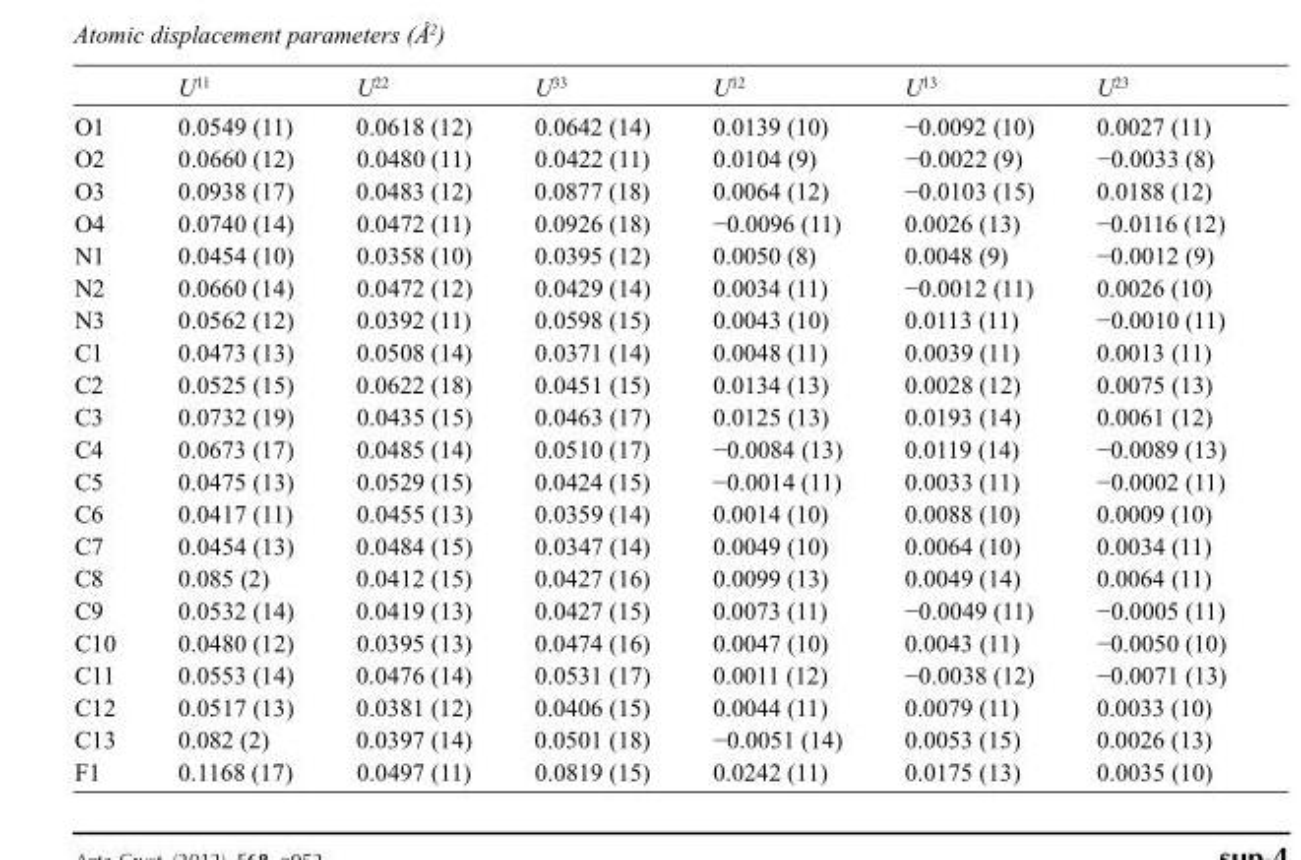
<table><thead><tr><td></td><td>U<sup>11</sup></td><td>U<sup>22</sup></td><td>U<sup>33</sup></td><td>U<sup>12</sup></td><td>U<sup>13</sup></td><td>U<sup>23</sup></td></tr></thead><tbody><tr><td>O1</td><td>0.0549 (11)</td><td>0.0618 (12)</td><td>0.0642 (14)</td><td>0.0139 (10)</td><td>−0.0092 (10)</td><td>0.0027 (11)</td></tr><tr><td>O2</td><td>0.0660 (12)</td><td>0.0480 (11)</td><td>0.0422 (11)</td><td>0.0104 (9)</td><td>−0.0022 (9)</td><td>−0.0033 (8)</td></tr><tr><td>O3</td><td>0.0938 (17)</td><td>0.0483 (12)</td><td>0.0877 (18)</td><td>0.0064 (12)</td><td>−0.0103 (15)</td><td>0.0188 (12)</td></tr><tr><td>O4</td><td>0.0740 (14)</td><td>0.0472 (11)</td><td>0.0926 (18)</td><td>−0.0096 (11)</td><td>0.0026 (13)</td><td>−0.0116 (12)</td></tr><tr><td>N1</td><td>0.0454 (10)</td><td>0.0358 (10)</td><td>0.0395 (12)</td><td>0.0050 (8)</td><td>0.0048 (9)</td><td>−0.0012 (9)</td></tr><tr><td>N2</td><td>0.0660 (14)</td><td>0.0472 (12)</td><td>0.0429 (14)</td><td>0.0034 (11)</td><td>−0.0012 (11)</td><td>0.0026 (10)</td></tr><tr><td>N3</td><td>0.0562 (12)</td><td>0.0392 (11)</td><td>0.0598 (15)</td><td>0.0043 (10)</td><td>0.0113 (11)</td><td>−0.0010 (11)</td></tr><tr><td>C1</td><td>0.0473 (13)</td><td>0.0508 (14)</td><td>0.0371 (14)</td><td>0.0048 (11)</td><td>0.0039 (11)</td><td>0.0013 (11)</td></tr><tr><td>C2</td><td>0.0525 (15)</td><td>0.0622 (18)</td><td>0.0451 (15)</td><td>0.0134 (13)</td><td>0.0028 (12)</td><td>0.0075 (13)</td></tr><tr><td>C3</td><td>0.0732 (19)</td><td>0.0435 (15)</td><td>0.0463 (17)</td><td>0.0125 (13)</td><td>0.0193 (14)</td><td>0.0061 (12)</td></tr><tr><td>C4</td><td>0.0673 (17)</td><td>0.0485 (14)</td><td>0.0510 (17)</td><td>−0.0084 (13)</td><td>0.0119 (14)</td><td>−0.0089 (13)</td></tr><tr><td>C5</td><td>0.0475 (13)</td><td>0.0529 (15)</td><td>0.0424 (15)</td><td>−0.0014 (11)</td><td>0.0033 (11)</td><td>−0.0002 (11)</td></tr><tr><td>C6</td><td>0.0417 (11)</td><td>0.0455 (13)</td><td>0.0359 (14)</td><td>0.0014 (10)</td><td>0.0088 (10)</td><td>0.0009 (10)</td></tr><tr><td>C7</td><td>0.0454 (13)</td><td>0.0484 (15)</td><td>0.0347 (14)</td><td>0.0049 (10)</td><td>0.0064 (10)</td><td>0.0034 (11)</td></tr><tr><td>C8</td><td>0.085 (2)</td><td>0.0412 (15)</td><td>0.0427 (16)</td><td>0.0099 (13)</td><td>0.0049 (14)</td><td>0.0064 (11)</td></tr><tr><td>C9</td><td>0.0532 (14)</td><td>0.0419 (13)</td><td>0.0427 (15)</td><td>0.0073 (11)</td><td>−0.0049 (11)</td><td>−0.0005 (11)</td></tr><tr><td>C10</td><td>0.0480 (12)</td><td>0.0395 (13)</td><td>0.0474 (16)</td><td>0.0047 (10)</td><td>0.0043 (11)</td><td>−0.0050 (10)</td></tr><tr><td>C11</td><td>0.0553 (14)</td><td>0.0476 (14)</td><td>0.0531 (17)</td><td>0.0011 (12)</td><td>−0.0038 (12)</td><td>−0.0071 (13)</td></tr><tr><td>C12</td><td>0.0517 (13)</td><td>0.0381 (12)</td><td>0.0406 (15)</td><td>0.0044 (11)</td><td>0.0079 (11)</td><td>0.0033 (10)</td></tr><tr><td>C13</td><td>0.082 (2)</td><td>0.0397 (14)</td><td>0.0501 (18)</td><td>−0.0051 (14)</td><td>0.0053 (15)</td><td>0.0026 (13)</td></tr><tr><td>F1</td><td>0.1168 (17)</td><td>0.0497 (11)</td><td>0.0819 (15)</td><td>0.0242 (11)</td><td>0.0175 (13)</td><td>0.0035 (10)</td></tr></tbody></table>